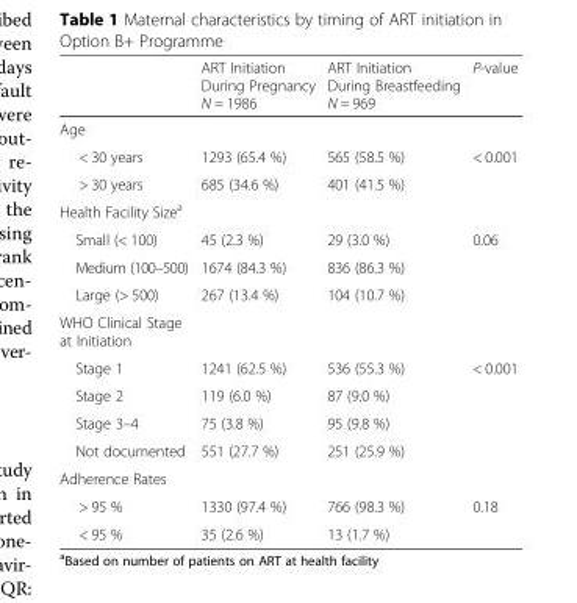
<table><thead><tr><td></td><td>ART Initiation During Pregnancy N = 1986</td><td>ART Initiation During Breastfeeding N = 969</td><td>P-value</td></tr></thead><tbody><tr><td colspan="4">Age</td></tr><tr><td>&lt; 30 years</td><td>1293 (65.4 %)</td><td>565 (58.5 %)</td><td>&lt; 0.001</td></tr><tr><td>&gt; 30 years</td><td>685 (34.6 %)</td><td>401 (41.5 %)</td><td></td></tr><tr><td colspan="4">Health Facility Size<sup>a</sup></td></tr><tr><td>Small (&lt; 100)</td><td>45 (2.3 %)</td><td>29 (3.0 %)</td><td>0.06</td></tr><tr><td>Medium (100–500)</td><td>1674 (84.3 %)</td><td>836 (86.3 %)</td><td></td></tr><tr><td>Large (&gt; 500)</td><td>267 (13.4 %)</td><td>104 (10.7 %)</td><td></td></tr><tr><td colspan="4">WHO Clinical Stage at Initiation</td></tr><tr><td>Stage 1</td><td>1241 (62.5 %)</td><td>536 (55.3 %)</td><td>&lt; 0.001</td></tr><tr><td>Stage 2</td><td>119 (6.0 %)</td><td>87 (9.0 %)</td><td></td></tr><tr><td>Stage 3–4</td><td>75 (3.8 %)</td><td>95 (9.8 %)</td><td></td></tr><tr><td>Not documented</td><td>551 (27.7 %)</td><td>251 (25.9 %)</td><td></td></tr><tr><td colspan="4">Adherence Rates</td></tr><tr><td>&gt; 95 %</td><td>1330 (97.4 %)</td><td>766 (98.3 %)</td><td>0.18</td></tr><tr><td>&lt; 95 %</td><td>35 (2.6 %)</td><td>13 (1.7 %)</td><td></td></tr></tbody></table>